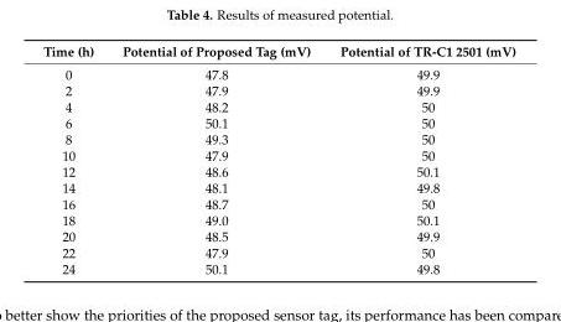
<table><thead><tr><td>Time (h)</td><td>Potential of Proposed Tag (mV)</td><td>Potential of TR-C1 2501 (mV)</td></tr></thead><tbody><tr><td>0</td><td>47.8</td><td>49.9</td></tr><tr><td>2</td><td>47.9</td><td>49.9</td></tr><tr><td>4</td><td>48.2</td><td>50</td></tr><tr><td>6</td><td>50.1</td><td>50</td></tr><tr><td>8</td><td>49.3</td><td>50</td></tr><tr><td>10</td><td>47.9</td><td>50</td></tr><tr><td>12</td><td>48.6</td><td>50.1</td></tr><tr><td>14</td><td>48.1</td><td>49.8</td></tr><tr><td>16</td><td>48.7</td><td>50</td></tr><tr><td>18</td><td>49.0</td><td>50.1</td></tr><tr><td>20</td><td>48.5</td><td>49.9</td></tr><tr><td>22</td><td>47.9</td><td>50</td></tr><tr><td>24</td><td>50.1</td><td>49.8</td></tr></tbody></table>